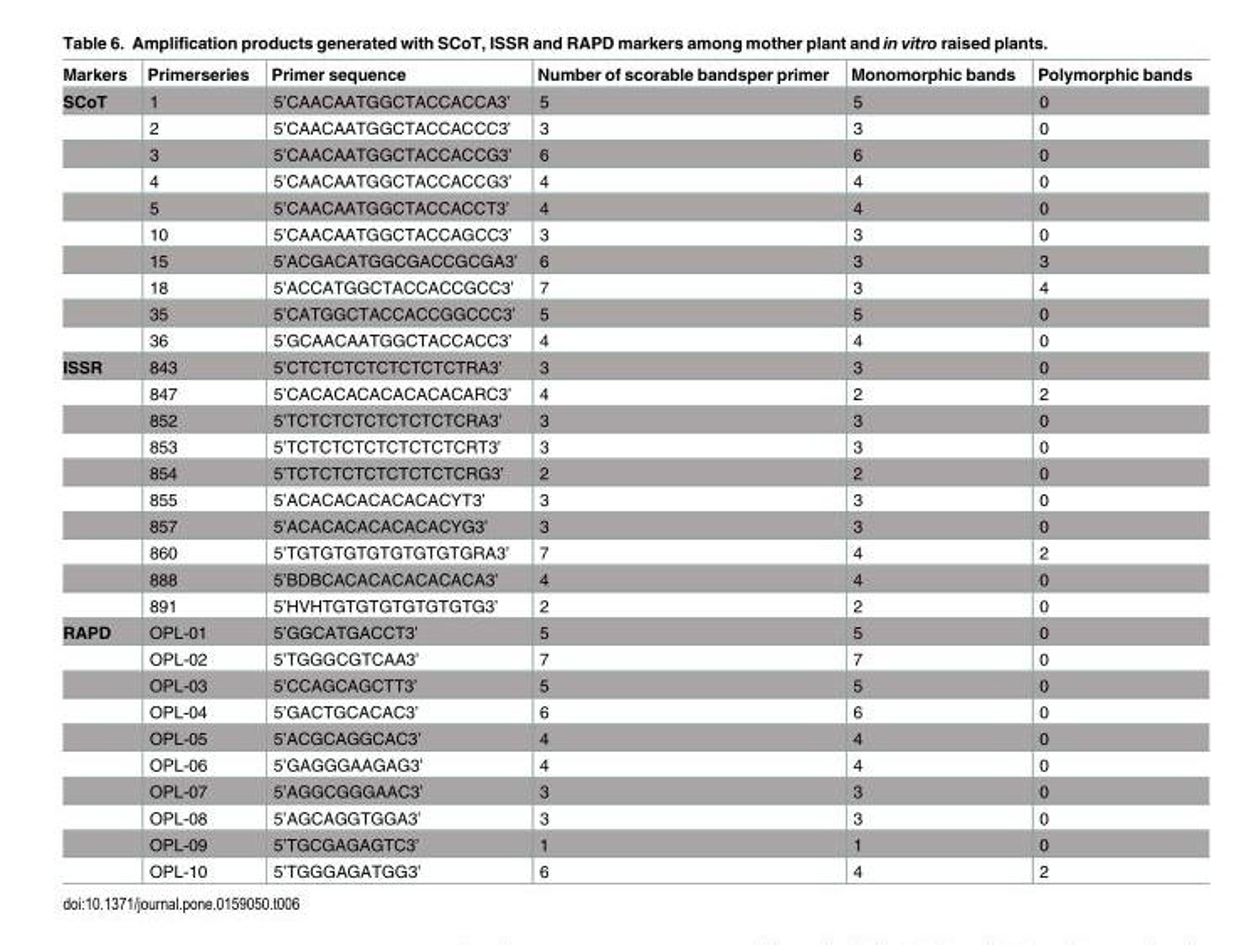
<table><thead><tr><td>Markers</td><td>Primerseries</td><td>Primer sequence</td><td>Number of scorable bandsper primer</td><td>Monomorphic bands</td><td>Polymorphic bands</td></tr></thead><tbody><tr><td rowspan="10">SCoT</td><td>1</td><td>5’CAACAATGGCTACCACCA3’</td><td>5</td><td>5</td><td>0</td></tr><tr><td>2</td><td>5’CAACAATGGCTACCACCC3’</td><td>3</td><td>3</td><td>0</td></tr><tr><td>3</td><td>5’CAACAATGGCTACCACCG3’</td><td>6</td><td>6</td><td>0</td></tr><tr><td>4</td><td>5’CAACAATGGCTACCACCG3’</td><td>4</td><td>4</td><td>0</td></tr><tr><td>5</td><td>5’CAACAATGGCTACCACCT3’</td><td>4</td><td>4</td><td>0</td></tr><tr><td>10</td><td>5’CAACAATGGCTACCAGCC3’</td><td>3</td><td>3</td><td>0</td></tr><tr><td>15</td><td>5’ACGACATGGCGACCGCGA3’</td><td>6</td><td>3</td><td>3</td></tr><tr><td>18</td><td>5’ACCATGGCTACCACCGCC3’</td><td>7</td><td>3</td><td>4</td></tr><tr><td>35</td><td>5’CATGGCTACCACCGGCCC3’</td><td>5</td><td>5</td><td>0</td></tr><tr><td>36</td><td>5’GCAACAATGGCTACCACC3’</td><td>4</td><td>4</td><td>0</td></tr><tr><td rowspan="10">ISSR</td><td>843</td><td>5’CTCTCTCTCTCTCTCTRA3’</td><td>3</td><td>3</td><td>0</td></tr><tr><td>847</td><td>5’CACACACACACACACARC3’</td><td>4</td><td>2</td><td>2</td></tr><tr><td>852</td><td>5’TCTCTCTCTCTCTCTCRA3’</td><td>3</td><td>3</td><td>0</td></tr><tr><td>853</td><td>5’TCTCTCTCTCTCTCTCRT3’</td><td>3</td><td>3</td><td>0</td></tr><tr><td>854</td><td>5’TCTCTCTCTCTCTCTCRG3’</td><td>2</td><td>2</td><td>0</td></tr><tr><td>855</td><td>5’ACACACACACACACYT3’</td><td>3</td><td>3</td><td>0</td></tr><tr><td>857</td><td>5’ACACACACACACACYG3’</td><td>3</td><td>3</td><td>0</td></tr><tr><td>860</td><td>5’TGTGTGTGTGTGTGTGRA3’</td><td>7</td><td>4</td><td>2</td></tr><tr><td>888</td><td>5’BDBCACACACACACACA3’</td><td>4</td><td>4</td><td>0</td></tr><tr><td>891</td><td>5’HVHTGTGTGTGTGTGTG3’</td><td>2</td><td>2</td><td>0</td></tr><tr><td rowspan="10">RAPD</td><td>OPL-01</td><td>5’GGCATGACCT3’</td><td>5</td><td>5</td><td>0</td></tr><tr><td>OPL-02</td><td>5’TGGGCGTCAA3’</td><td>7</td><td>7</td><td>0</td></tr><tr><td>OPL-03</td><td>5’CCAGCAGCTT3’</td><td>5</td><td>5</td><td>0</td></tr><tr><td>OPL-04</td><td>5’GACTGCACAC3’</td><td>6</td><td>6</td><td>0</td></tr><tr><td>OPL-05</td><td>5’ACGCAGGCAC3’</td><td>4</td><td>4</td><td>0</td></tr><tr><td>OPL-06</td><td>5’GAGGGAAGAG3’</td><td>4</td><td>4</td><td>0</td></tr><tr><td>OPL-07</td><td>5’AGGCGGGAAC3’</td><td>3</td><td>3</td><td>0</td></tr><tr><td>OPL-08</td><td>5’AGCAGGTGGA3’</td><td>3</td><td>3</td><td>0</td></tr><tr><td>OPL-09</td><td>5’TGCGAGAGTC3’</td><td>1</td><td>1</td><td>0</td></tr><tr><td>OPL-10</td><td>5’TGGGAGATGG3’</td><td>6</td><td>4</td><td>2</td></tr></tbody></table>